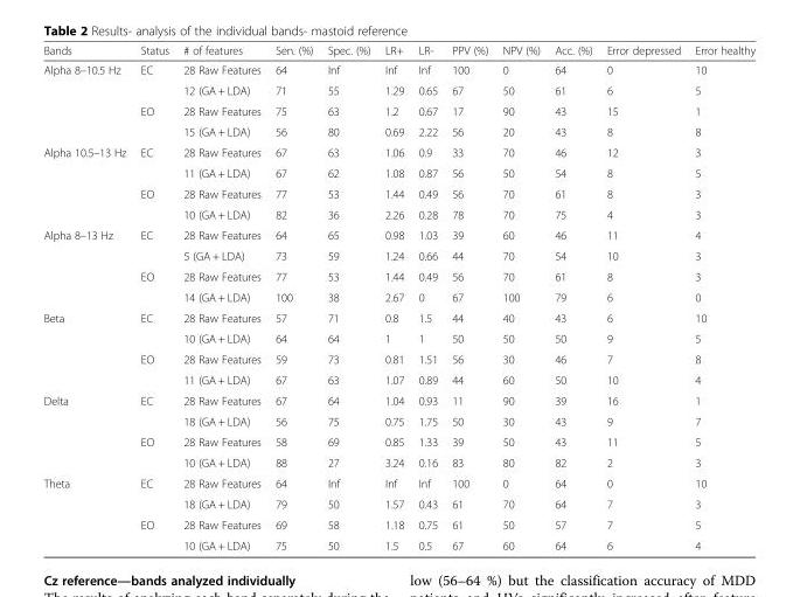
<table><thead><tr><td>Bands</td><td>Status</td><td># of features</td><td>Sen. (%)</td><td>Spec. (%)</td><td>LR+</td><td>LR-</td><td>PPV (%)</td><td>NPV (%)</td><td>Acc. (%)</td><td>Error depressed</td><td>Error healthy</td></tr></thead><tbody><tr><td rowspan="4">Alpha 8–10.5 Hz</td><td rowspan="2">EC</td><td>28 Raw Features</td><td>64</td><td>Inf</td><td>Inf</td><td>Inf</td><td>100</td><td>0</td><td>64</td><td>0</td><td>10</td></tr><tr><td>12 (GA + LDA)</td><td>71</td><td>55</td><td>1.29</td><td>0.65</td><td>67</td><td>50</td><td>61</td><td>6</td><td>5</td></tr><tr><td rowspan="2">EO</td><td>28 Raw Features</td><td>75</td><td>63</td><td>1.2</td><td>0.67</td><td>17</td><td>90</td><td>43</td><td>15</td><td>1</td></tr><tr><td>15 (GA + LDA)</td><td>56</td><td>80</td><td>0.69</td><td>2.22</td><td>56</td><td>20</td><td>43</td><td>8</td><td>8</td></tr><tr><td rowspan="4">Alpha 10.5–13 Hz</td><td rowspan="2">EC</td><td>28 Raw Features</td><td>67</td><td>63</td><td>1.06</td><td>0.9</td><td>33</td><td>70</td><td>46</td><td>12</td><td>3</td></tr><tr><td>11 (GA + LDA)</td><td>67</td><td>62</td><td>1.08</td><td>0.87</td><td>56</td><td>50</td><td>54</td><td>8</td><td>5</td></tr><tr><td rowspan="2">EO</td><td>28 Raw Features</td><td>77</td><td>53</td><td>1.44</td><td>0.49</td><td>56</td><td>70</td><td>61</td><td>8</td><td>3</td></tr><tr><td>10 (GA + LDA)</td><td>82</td><td>36</td><td>2.26</td><td>0.28</td><td>78</td><td>70</td><td>75</td><td>4</td><td>3</td></tr><tr><td rowspan="4">Alpha 8–13 Hz</td><td rowspan="2">EC</td><td>28 Raw Features</td><td>64</td><td>65</td><td>0.98</td><td>1.03</td><td>39</td><td>60</td><td>46</td><td>11</td><td>4</td></tr><tr><td>5 (GA + LDA)</td><td>73</td><td>59</td><td>1.24</td><td>0.66</td><td>44</td><td>70</td><td>54</td><td>10</td><td>3</td></tr><tr><td rowspan="2">EO</td><td>28 Raw Features</td><td>77</td><td>53</td><td>1.44</td><td>0.49</td><td>56</td><td>70</td><td>61</td><td>8</td><td>3</td></tr><tr><td>14 (GA + LDA)</td><td>100</td><td>38</td><td>2.67</td><td>0</td><td>67</td><td>100</td><td>79</td><td>6</td><td>0</td></tr><tr><td rowspan="4">Beta</td><td rowspan="2">EC</td><td>28 Raw Features</td><td>57</td><td>71</td><td>0.8</td><td>1.5</td><td>44</td><td>40</td><td>43</td><td>6</td><td>10</td></tr><tr><td>10 (GA + LDA)</td><td>64</td><td>64</td><td>1</td><td>1</td><td>50</td><td>50</td><td>50</td><td>9</td><td>5</td></tr><tr><td rowspan="2">EO</td><td>28 Raw Features</td><td>59</td><td>73</td><td>0.81</td><td>1.51</td><td>56</td><td>30</td><td>46</td><td>7</td><td>8</td></tr><tr><td>11 (GA + LDA)</td><td>67</td><td>63</td><td>1.07</td><td>0.89</td><td>44</td><td>60</td><td>50</td><td>10</td><td>4</td></tr><tr><td rowspan="4">Delta</td><td rowspan="2">EC</td><td>28 Raw Features</td><td>67</td><td>64</td><td>1.04</td><td>0.93</td><td>11</td><td>90</td><td>39</td><td>16</td><td>1</td></tr><tr><td>18 (GA + LDA)</td><td>56</td><td>75</td><td>0.75</td><td>1.75</td><td>50</td><td>30</td><td>43</td><td>9</td><td>7</td></tr><tr><td rowspan="2">EO</td><td>28 Raw Features</td><td>58</td><td>69</td><td>0.85</td><td>1.33</td><td>39</td><td>50</td><td>43</td><td>11</td><td>5</td></tr><tr><td>10 (GA + LDA)</td><td>88</td><td>27</td><td>3.24</td><td>0.16</td><td>83</td><td>80</td><td>82</td><td>2</td><td>3</td></tr><tr><td rowspan="4">Theta</td><td rowspan="2">EC</td><td>28 Raw Features</td><td>64</td><td>Inf</td><td>Inf</td><td>Inf</td><td>100</td><td>0</td><td>64</td><td>0</td><td>10</td></tr><tr><td>18 (GA + LDA)</td><td>79</td><td>50</td><td>1.57</td><td>0.43</td><td>61</td><td>70</td><td>64</td><td>7</td><td>3</td></tr><tr><td rowspan="2">EO</td><td>28 Raw Features</td><td>69</td><td>58</td><td>1.18</td><td>0.75</td><td>61</td><td>50</td><td>57</td><td>7</td><td>5</td></tr><tr><td>10 (GA + LDA)</td><td>75</td><td>50</td><td>1.5</td><td>0.5</td><td>67</td><td>60</td><td>64</td><td>6</td><td>4</td></tr></tbody></table>